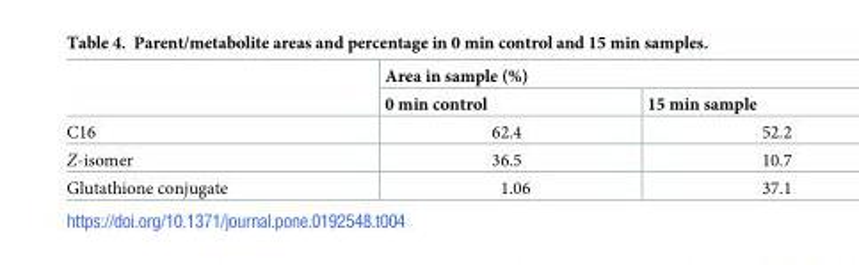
<table><thead><tr><td rowspan="2"></td><td colspan="2">Area in sample (%)</td></tr><tr><td>0 min control</td><td>15 min sample</td></tr></thead><tbody><tr><td>C16</td><td>62.4</td><td>52.2</td></tr><tr><td>Z-isomer</td><td>36.5</td><td>10.7</td></tr><tr><td>Glutathione conjugate</td><td>1.06</td><td>37.1</td></tr></tbody></table>